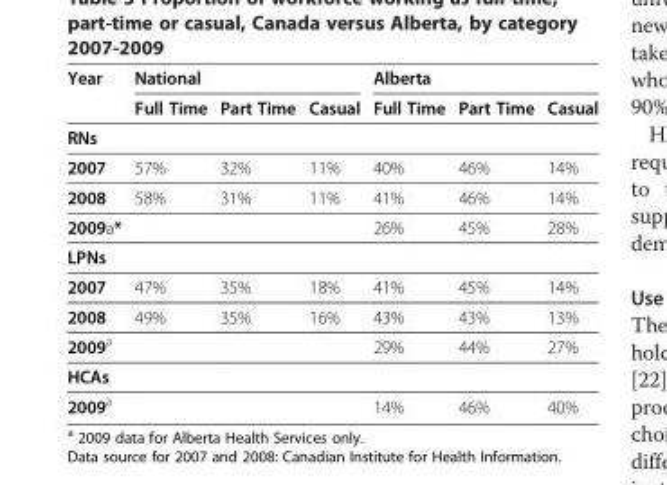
<table><thead><tr><td rowspan="2">Year</td><td colspan="3">National</td><td colspan="3">Alberta</td></tr><tr><td>Full Time</td><td>Part Time</td><td>Casual</td><td>Full Time</td><td>Part Time</td><td>Casual</td></tr></thead><tbody><tr><td colspan="7">RNs</td></tr><tr><td>2007</td><td>57%</td><td>32%</td><td>11%</td><td>40%</td><td>46%</td><td>14%</td></tr><tr><td>2008</td><td>58%</td><td>31%</td><td>11%</td><td>41%</td><td>46%</td><td>14%</td></tr><tr><td>2009a*</td><td></td><td></td><td></td><td>26%</td><td>45%</td><td>28%</td></tr><tr><td colspan="7">LPNs</td></tr><tr><td>2007</td><td>47%</td><td>35%</td><td>18%</td><td>41%</td><td>45%</td><td>14%</td></tr><tr><td>2008</td><td>49%</td><td>35%</td><td>16%</td><td>43%</td><td>43%</td><td>13%</td></tr><tr><td>2009<sup>a</sup></td><td></td><td></td><td></td><td>29%</td><td>44%</td><td>27%</td></tr><tr><td colspan="7">HCAs</td></tr><tr><td>2009<sup>a</sup></td><td></td><td></td><td></td><td>14%</td><td>46%</td><td>40%</td></tr></tbody></table>